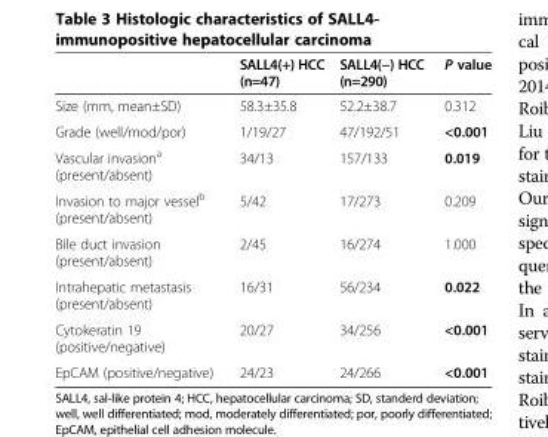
<table><thead><tr><td></td><td>SALL4(+) HCC (n=47)</td><td>SALL4(−) HCC (n=290)</td><td>P value</td></tr></thead><tbody><tr><td>Size (mm, mean±SD)</td><td>58.3±35.8</td><td>52.2±38.7</td><td>0.312</td></tr><tr><td>Grade (well/mod/por)</td><td>1/19/27</td><td>47/192/51</td><td>&lt;0.001</td></tr><tr><td>Vascular invasion<sup>a</sup> (present/absent)</td><td>34/13</td><td>157/133</td><td>0.019</td></tr><tr><td>Invasion to major vessel<sup>b</sup> (present/absent)</td><td>5/42</td><td>17/273</td><td>0.209</td></tr><tr><td>Bile duct invasion (present/absent)</td><td>2/45</td><td>16/274</td><td>1.000</td></tr><tr><td>Intrahepatic metastasis (present/absent)</td><td>16/31</td><td>56/234</td><td>0.022</td></tr><tr><td>Cytokeratin 19 (positive/negative)</td><td>20/27</td><td>34/256</td><td>&lt;0.001</td></tr><tr><td>EpCAM (positive/negative)</td><td>24/23</td><td>24/266</td><td>&lt;0.001</td></tr></tbody></table>